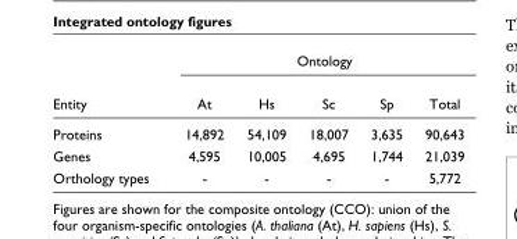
<table><thead><tr><td rowspan="2">Entity</td><td colspan="5">Ontology</td></tr><tr><td>At</td><td>Hs</td><td>Sc</td><td>Sp</td><td>Total</td></tr></thead><tbody><tr><td>Proteins</td><td>14,892</td><td>54,109</td><td>18,007</td><td>3,635</td><td>90,643</td></tr><tr><td>Genes</td><td>4,595</td><td>10,005</td><td>4,695</td><td>1,744</td><td>21,039</td></tr><tr><td>Orthology types</td><td>-</td><td>-</td><td>-</td><td>-</td><td>5,772</td></tr></tbody></table>